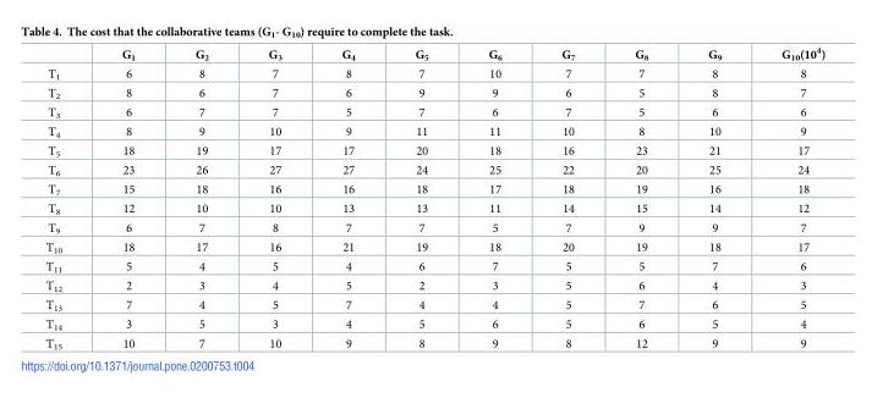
<table><thead><tr><td></td><td>G<sub>1</sub></td><td>G<sub>2</sub></td><td>G<sub>3</sub></td><td>G<sub>4</sub></td><td>G<sub>5</sub></td><td>G<sub>6</sub></td><td>G<sub>7</sub></td><td>G<sub>8</sub></td><td>G<sub>9</sub></td><td>G<sub>10</sub>(10<sup>4</sup>)</td></tr></thead><tbody><tr><td>T<sub>1</sub></td><td>6</td><td>8</td><td>7</td><td>8</td><td>7</td><td>10</td><td>7</td><td>7</td><td>8</td><td>8</td></tr><tr><td>T<sub>2</sub></td><td>8</td><td>6</td><td>7</td><td>6</td><td>9</td><td>9</td><td>6</td><td>5</td><td>8</td><td>7</td></tr><tr><td>T<sub>3</sub></td><td>6</td><td>7</td><td>7</td><td>5</td><td>7</td><td>6</td><td>7</td><td>5</td><td>6</td><td>6</td></tr><tr><td>T<sub>4</sub></td><td>8</td><td>9</td><td>10</td><td>9</td><td>11</td><td>11</td><td>10</td><td>8</td><td>10</td><td>9</td></tr><tr><td>T<sub>5</sub></td><td>18</td><td>19</td><td>17</td><td>17</td><td>20</td><td>18</td><td>16</td><td>23</td><td>21</td><td>17</td></tr><tr><td>T<sub>6</sub></td><td>23</td><td>26</td><td>27</td><td>27</td><td>24</td><td>25</td><td>22</td><td>20</td><td>25</td><td>24</td></tr><tr><td>T<sub>7</sub></td><td>15</td><td>18</td><td>16</td><td>16</td><td>18</td><td>17</td><td>18</td><td>19</td><td>16</td><td>18</td></tr><tr><td>T<sub>8</sub></td><td>12</td><td>10</td><td>10</td><td>13</td><td>13</td><td>11</td><td>14</td><td>15</td><td>14</td><td>12</td></tr><tr><td>T<sub>9</sub></td><td>6</td><td>7</td><td>8</td><td>7</td><td>7</td><td>5</td><td>7</td><td>9</td><td>9</td><td>7</td></tr><tr><td>T<sub>10</sub></td><td>18</td><td>17</td><td>16</td><td>21</td><td>19</td><td>18</td><td>20</td><td>19</td><td>18</td><td>17</td></tr><tr><td>T<sub>11</sub></td><td>5</td><td>4</td><td>5</td><td>4</td><td>6</td><td>7</td><td>5</td><td>5</td><td>7</td><td>6</td></tr><tr><td>T<sub>12</sub></td><td>2</td><td>3</td><td>4</td><td>5</td><td>2</td><td>3</td><td>5</td><td>6</td><td>4</td><td>3</td></tr><tr><td>T<sub>13</sub></td><td>7</td><td>4</td><td>5</td><td>7</td><td>4</td><td>4</td><td>5</td><td>7</td><td>6</td><td>5</td></tr><tr><td>T<sub>14</sub></td><td>3</td><td>5</td><td>3</td><td>4</td><td>5</td><td>6</td><td>5</td><td>6</td><td>5</td><td>4</td></tr><tr><td>T<sub>15</sub></td><td>10</td><td>7</td><td>10</td><td>9</td><td>8</td><td>9</td><td>8</td><td>12</td><td>9</td><td>9</td></tr></tbody></table>